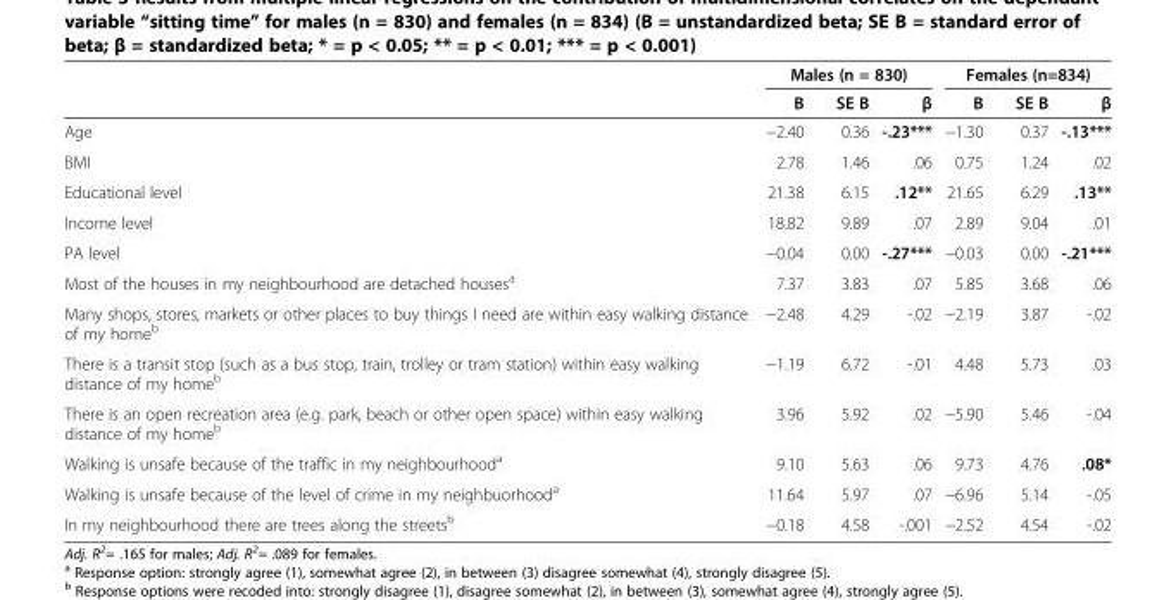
<table><thead><tr><td rowspan="2"></td><td colspan="3">Males (n = 830)</td><td colspan="3">Females (n=834)</td></tr><tr><td>B</td><td>SE B</td><td>β</td><td>B</td><td>SE B</td><td>β</td></tr></thead><tbody><tr><td>Age</td><td>−2.40</td><td>0.36</td><td>-.23***</td><td>−1.30</td><td>0.37</td><td>-.13***</td></tr><tr><td>BMI</td><td>2.78</td><td>1.46</td><td>.06</td><td>0.75</td><td>1.24</td><td>.02</td></tr><tr><td>Educational level</td><td>21.38</td><td>6.15</td><td>.12**</td><td>21.65</td><td>6.29</td><td>.13**</td></tr><tr><td>Income level</td><td>18.82</td><td>9.89</td><td>.07</td><td>2.89</td><td>9.04</td><td>.01</td></tr><tr><td>PA level</td><td>−0.04</td><td>0.00</td><td>-.27***</td><td>−0.03</td><td>0.00</td><td>-.21***</td></tr><tr><td>Most of the houses in my neighbourhood are detached houses<sup>a</sup></td><td>7.37</td><td>3.83</td><td>.07</td><td>5.85</td><td>3.68</td><td>.06</td></tr><tr><td>Many shops, stores, markets or other places to buy things I need are within easy walking distance of my home<sup>b</sup></td><td>−2.48</td><td>4.29</td><td>-.02</td><td>−2.19</td><td>3.87</td><td>-.02</td></tr><tr><td>There is a transit stop (such as a bus stop, train, trolley or tram station) within easy walking distance of my home<sup>b</sup></td><td>−1.19</td><td>6.72</td><td>-.01</td><td>4.48</td><td>5.73</td><td>.03</td></tr><tr><td>There is an open recreation area (e.g. park, beach or other open space) within easy walking distance of my home<sup>b</sup></td><td>3.96</td><td>5.92</td><td>.02</td><td>−5.90</td><td>5.46</td><td>-.04</td></tr><tr><td>Walking is unsafe because of the traffic in my neighbourhood<sup>a</sup></td><td>9.10</td><td>5.63</td><td>.06</td><td>9.73</td><td>4.76</td><td>.08*</td></tr><tr><td>Walking is unsafe because of the level of crime in my neighbuorhood<sup>a</sup></td><td>11.64</td><td>5.97</td><td>.07</td><td>−6.96</td><td>5.14</td><td>-.05</td></tr><tr><td>In my neighbourhood there are trees along the streets<sup>b</sup></td><td>−0.18</td><td>4.58</td><td>-.001</td><td>−2.52</td><td>4.54</td><td>-.02</td></tr></tbody></table>